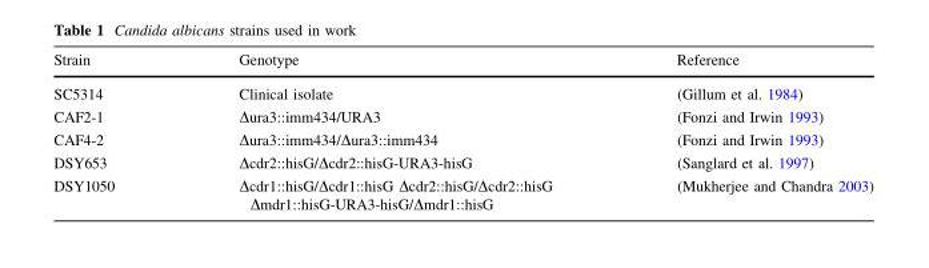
<table><thead><tr><td>Strain</td><td>Genotype</td><td>Reference</td></tr></thead><tbody><tr><td>SC5314</td><td>Clinical isolate</td><td>(Gillum et al. 1984)</td></tr><tr><td>CAF2-1</td><td>Δura3::imm434/URA3</td><td>(Fonzi and Irwin 1993)</td></tr><tr><td>CAF4-2</td><td>Δura3::imm434/Δura3::imm434</td><td>(Fonzi and Irwin 1993)</td></tr><tr><td>DSY653</td><td>Δcdr2::hisG/Δcdr2::hisG-URA3-hisG</td><td>(Sanglard et al. 1997)</td></tr><tr><td>DSY1050</td><td>Δcdr1::hisG/Δcdr1::hisG Δcdr2::hisG/Δcdr2::hisG Δmdr1::hisG-URA3-hisG/Δmdr1::hisG</td><td>(Mukherjee and Chandra 2003)</td></tr></tbody></table>